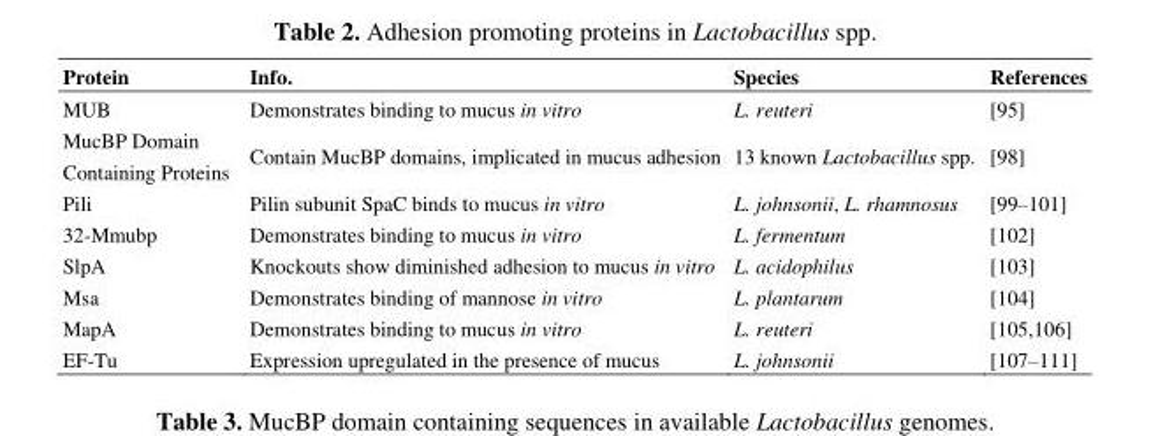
<table><thead><tr><td>Protein</td><td>Info.</td><td>Species</td><td>References</td></tr></thead><tbody><tr><td>MUB</td><td>Demonstrates binding to mucus in vitro</td><td>L. reuteri</td><td>[95]</td></tr><tr><td>MucBP Domain Containing Proteins</td><td>Contain MucBP domains, implicated in mucus adhesion</td><td>13 known Lactobacillus spp.</td><td>[98]</td></tr><tr><td>Pili</td><td>Pilin subunit SpaC binds to mucus in vitro</td><td>L. johnsonii, L. rhamnosus</td><td>[99–101]</td></tr><tr><td>32-Mmubp</td><td>Demonstrates binding to mucus in vitro</td><td>L. fermentum</td><td>[102]</td></tr><tr><td>SlpA</td><td>Knockouts show diminished adhesion to mucus in vitro</td><td>L. acidophilus</td><td>[103]</td></tr><tr><td>Msa</td><td>Demonstrates binding of mannose in vitro</td><td>L. plantarum</td><td>[104]</td></tr><tr><td>MapA</td><td>Demonstrates binding to mucus in vitro</td><td>L. reuteri</td><td>[105,106]</td></tr><tr><td>EF-Tu</td><td>Expression upregulated in the presence of mucus</td><td>L. johnsonii</td><td>[107–111]</td></tr></tbody></table>